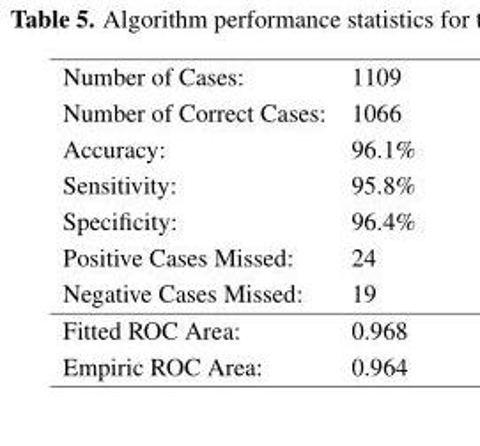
<table><tbody><tr><td>Number of Cases:</td><td>1109</td></tr><tr><td>Number of Correct Cases:</td><td>1066</td></tr><tr><td>Accuracy:</td><td>96.1%</td></tr><tr><td>Sensitivity:</td><td>95.8%</td></tr><tr><td>Specificity:</td><td>96.4%</td></tr><tr><td>Positive Cases Missed:</td><td>24</td></tr><tr><td>Negative Cases Missed:</td><td>19</td></tr><tr><td>Fitted ROC Area:</td><td>0.968</td></tr><tr><td>Empiric ROC Area:</td><td>0.964</td></tr></tbody></table>